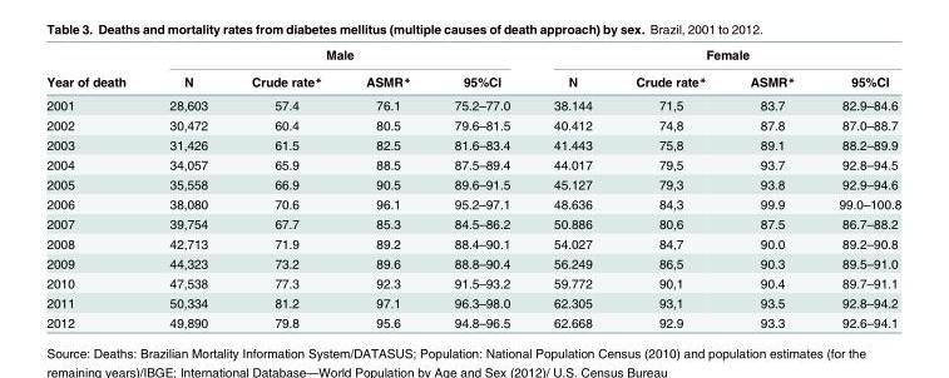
<table><thead><tr><td rowspan="2">Year of death</td><td colspan="4">Male</td><td colspan="4">Female</td></tr><tr><td>N</td><td>Crude rate*</td><td>ASMR*</td><td>95%CI</td><td>N</td><td>Crude rate*</td><td>ASMR*</td><td>95%CI</td></tr></thead><tbody><tr><td>2001</td><td>28,603</td><td>57.4</td><td>76.1</td><td>75.2–77.0</td><td>38.144</td><td>71,5</td><td>83.7</td><td>82.9–84.6</td></tr><tr><td>2002</td><td>30,472</td><td>60.4</td><td>80.5</td><td>79.6–81.5</td><td>40.412</td><td>74,8</td><td>87.8</td><td>87.0–88.7</td></tr><tr><td>2003</td><td>31,426</td><td>61.5</td><td>82.5</td><td>81.6–83.4</td><td>41.443</td><td>75,8</td><td>89.1</td><td>88.2–89.9</td></tr><tr><td>2004</td><td>34,057</td><td>65.9</td><td>88.5</td><td>87.5–89.4</td><td>44.017</td><td>79,5</td><td>93.7</td><td>92.8–94.5</td></tr><tr><td>2005</td><td>35,558</td><td>66.9</td><td>90.5</td><td>89.6–91.5</td><td>45.127</td><td>79,3</td><td>93.8</td><td>92.9–94.6</td></tr><tr><td>2006</td><td>38,080</td><td>70.6</td><td>96.1</td><td>95.2–97.1</td><td>48.636</td><td>84,3</td><td>99.9</td><td>99.0–100.8</td></tr><tr><td>2007</td><td>39,754</td><td>67.7</td><td>85.3</td><td>84.5–86.2</td><td>50.886</td><td>80,6</td><td>87.5</td><td>86.7–88.2</td></tr><tr><td>2008</td><td>42,713</td><td>71.9</td><td>89.2</td><td>88.4–90.1</td><td>54.027</td><td>84,7</td><td>90.0</td><td>89.2–90.8</td></tr><tr><td>2009</td><td>44,323</td><td>73.2</td><td>89.6</td><td>88.8–90.4</td><td>56.249</td><td>86,5</td><td>90.3</td><td>89.5–91.0</td></tr><tr><td>2010</td><td>47,538</td><td>77.3</td><td>92.3</td><td>91.5–93.2</td><td>59.772</td><td>90,1</td><td>90.4</td><td>89.7–91.1</td></tr><tr><td>2011</td><td>50,334</td><td>81.2</td><td>97.1</td><td>96.3–98.0</td><td>62.305</td><td>93,1</td><td>93.5</td><td>92.8–94.2</td></tr><tr><td>2012</td><td>49,890</td><td>79.8</td><td>95.6</td><td>94.8–96.5</td><td>62.668</td><td>92.9</td><td>93.3</td><td>92.6–94.1</td></tr></tbody></table>